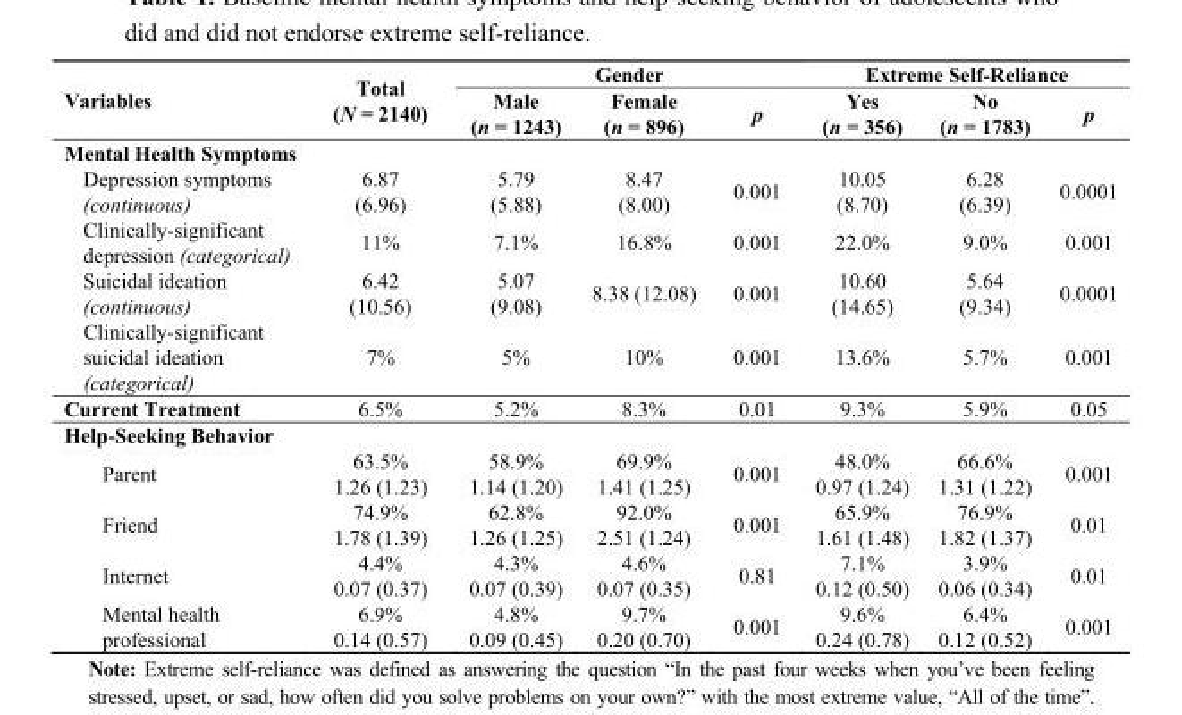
<table><thead><tr><td rowspan="2">Variables</td><td rowspan="2">Total (N = 2140)</td><td colspan="3">Gender</td><td colspan="3">Extreme Self-Reliance</td></tr><tr><td>Male (n = 1243)</td><td>Female (n = 896)</td><td>p</td><td>Yes (n = 356)</td><td>No (n = 1783)</td><td>p</td></tr></thead><tbody><tr><td colspan="8">Mental Health Symptoms</td></tr><tr><td>Depression symptoms (continuous)</td><td>6.87 (6.96)</td><td>5.79 (5.88)</td><td>8.47 (8.00)</td><td>0.001</td><td>10.05 (8.70)</td><td>6.28 (6.39)</td><td>0.0001</td></tr><tr><td>Clinically-significant depression (categorical)</td><td>11%</td><td>7.1%</td><td>16.8%</td><td>0.001</td><td>22.0%</td><td>9.0%</td><td>0.001</td></tr><tr><td>Suicidal ideation (continuous)</td><td>6.42 (10.56)</td><td>5.07 (9.08)</td><td>8.38 (12.08)</td><td>0.001</td><td>10.60 (14.65)</td><td>5.64 (9.34)</td><td>0.0001</td></tr><tr><td>Clinically-significant suicidal ideation (categorical)</td><td>7%</td><td>5%</td><td>10%</td><td>0.001</td><td>13.6%</td><td>5.7%</td><td>0.001</td></tr><tr><td>Current Treatment</td><td>6.5%</td><td>5.2%</td><td>8.3%</td><td>0.01</td><td>9.3%</td><td>5.9%</td><td>0.05</td></tr><tr><td colspan="8">Help-Seeking Behavior</td></tr><tr><td>Parent</td><td>63.5% 1.26 (1.23)</td><td>58.9% 1.14 (1.20)</td><td>69.9% 1.41 (1.25)</td><td>0.001</td><td>48.0% 0.97 (1.24)</td><td>66.6% 1.31 (1.22)</td><td>0.001</td></tr><tr><td>Friend</td><td>74.9% 1.78 (1.39)</td><td>62.8% 1.26 (1.25)</td><td>92.0% 2.51 (1.24)</td><td>0.001</td><td>65.9% 1.61 (1.48)</td><td>76.9% 1.82 (1.37)</td><td>0.01</td></tr><tr><td>Internet</td><td>4.4% 0.07 (0.37)</td><td>4.3% 0.07 (0.39)</td><td>4.6% 0.07 (0.35)</td><td>0.81</td><td>7.1% 0.12 (0.50)</td><td>3.9% 0.06 (0.34)</td><td>0.01</td></tr><tr><td>Mental health professional</td><td>6.9% 0.14 (0.57)</td><td>4.8% 0.09 (0.45)</td><td>9.7% 0.20 (0.70)</td><td>0.001</td><td>9.6% 0.24 (0.78)</td><td>6.4% 0.12 (0.52)</td><td>0.001</td></tr></tbody></table>